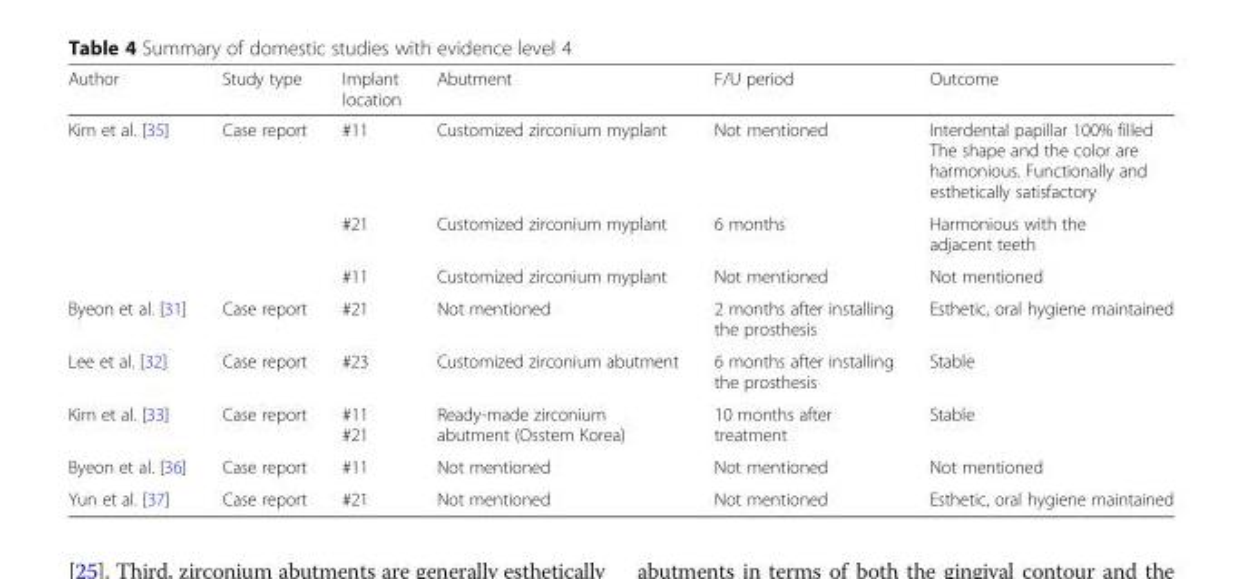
<table><thead><tr><td>Author</td><td>Study type</td><td>Implant location</td><td>Abutment</td><td>F/U period</td><td>Outcome</td></tr></thead><tbody><tr><td rowspan="3">Kim et al. [35]</td><td rowspan="3">Case report</td><td>#11</td><td>Customized zirconium myplant</td><td>Not mentioned</td><td>Interdental papillar 100% filled The shape and the color are harmonious. Functionally and esthetically satisfactory</td></tr><tr><td>#21</td><td>Customized zirconium myplant</td><td>6 months</td><td>Harmonious with the adjacent teeth</td></tr><tr><td>#11</td><td>Customized zirconium myplant</td><td>Not mentioned</td><td>Not mentioned</td></tr><tr><td>Byeon et al. [31]</td><td>Case report</td><td>#21</td><td>Not mentioned</td><td>2 months after installing the prosthesis</td><td>Esthetic, oral hygiene maintained</td></tr><tr><td>Lee et al. [32]</td><td>Case report</td><td>#23</td><td>Customized zirconium abutment</td><td>6 months after installing the prosthesis</td><td>Stable</td></tr><tr><td>Kim et al. [33]</td><td>Case report</td><td>#11 #21</td><td>Ready-made zirconium abutment (Osstem Korea)</td><td>10 months after treatment</td><td>Stable</td></tr><tr><td>Byeon et al. [36]</td><td>Case report</td><td>#11</td><td>Not mentioned</td><td>Not mentioned</td><td>Not mentioned</td></tr><tr><td>Yun et al. [37]</td><td>Case report</td><td>#21</td><td>Not mentioned</td><td>Not mentioned</td><td>Esthetic, oral hygiene maintained</td></tr></tbody></table>